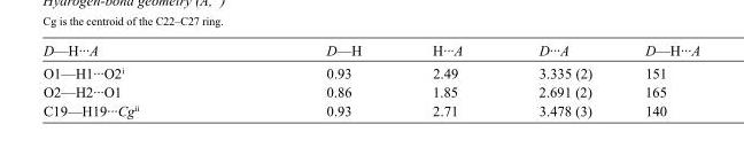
<table><tbody><tr><td>D—H···A</td><td>D—H</td><td>H···A</td><td>D···A</td><td>D—H···A</td></tr><tr><td>O1—H1···O2<sup>i</sup></td><td>0.93</td><td>2.49</td><td>3.335 (2)</td><td>151</td></tr><tr><td>O2—H2···O1</td><td>0.86</td><td>1.85</td><td>2.691 (2)</td><td>165</td></tr><tr><td>C19—H19···Cg<sup>ii</sup></td><td>0.93</td><td>2.71</td><td>3.478 (3)</td><td>140</td></tr></tbody></table>